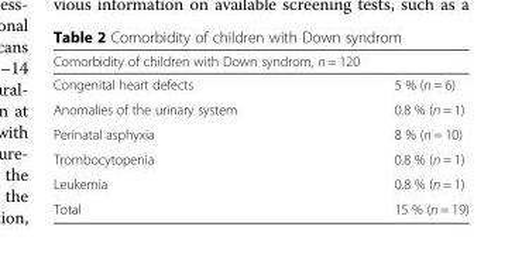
<table><thead><tr><td>Comorbidity of children with Down syndrom, n = 120</td><td></td></tr></thead><tbody><tr><td>Congenital heart defects</td><td>5 % (n = 6)</td></tr><tr><td>Anomalies of the urinary system</td><td>0.8 % (n = 1)</td></tr><tr><td>Perinatal asphyxia</td><td>8 % (n = 10)</td></tr><tr><td>Trombocytopenia</td><td>0.8 % (n = 1)</td></tr><tr><td>Leukemia</td><td>0.8 % (n = 1)</td></tr><tr><td>Total</td><td>15 % (n = 19)</td></tr></tbody></table>